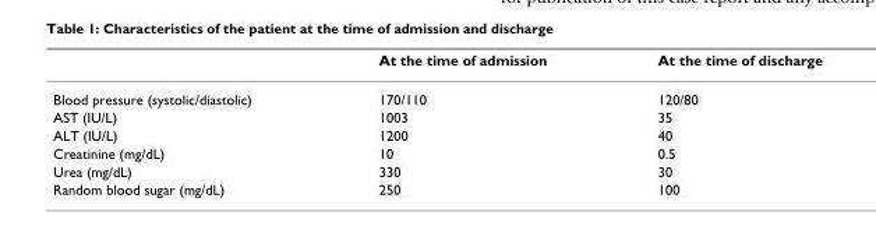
<table><thead><tr><td></td><td>At the time of admission</td><td>At the time of discharge</td></tr></thead><tbody><tr><td>Blood pressure (systolic/diastolic)</td><td>170/110</td><td>120/80</td></tr><tr><td>AST (IU/L)</td><td>1003</td><td>35</td></tr><tr><td>ALT (IU/L)</td><td>1200</td><td>40</td></tr><tr><td>Creatinine (mg/dL)</td><td>10</td><td>0.5</td></tr><tr><td>Urea (mg/dL)</td><td>330</td><td>30</td></tr><tr><td>Random blood sugar (mg/dL)</td><td>250</td><td>100</td></tr></tbody></table>